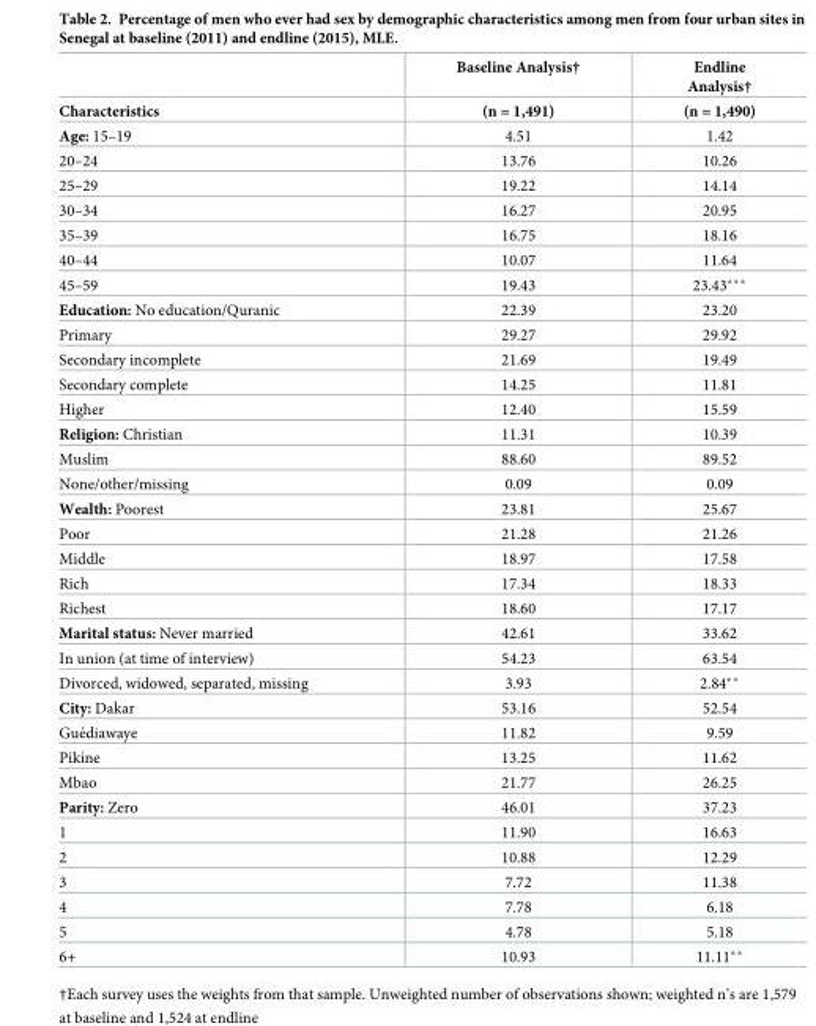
<table><thead><tr><td rowspan="2">Characteristics</td><td rowspan="2">Baseline Analysis† (n = 1,491)</td><td rowspan="2">Endline Analysis† (n = 1,490)</td></tr><tr></tr></thead><tbody><tr><td>Age: 15–19</td><td>4.51</td><td>1.42</td></tr><tr><td>20–24</td><td>13.76</td><td>10.26</td></tr><tr><td>25–29</td><td>19.22</td><td>14.14</td></tr><tr><td>30–34</td><td>16.27</td><td>20.95</td></tr><tr><td>35–39</td><td>16.75</td><td>18.16</td></tr><tr><td>40–44</td><td>10.07</td><td>11.64</td></tr><tr><td>45–59</td><td>19.43</td><td>23.43***</td></tr><tr><td>Education: No education/Quranic</td><td>22.39</td><td>23.20</td></tr><tr><td>Primary</td><td>29.27</td><td>29.92</td></tr><tr><td>Secondary incomplete</td><td>21.69</td><td>19.49</td></tr><tr><td>Secondary complete</td><td>14.25</td><td>11.81</td></tr><tr><td>Higher</td><td>12.40</td><td>15.59</td></tr><tr><td>Religion: Christian</td><td>11.31</td><td>10.39</td></tr><tr><td>Muslim</td><td>88.60</td><td>89.52</td></tr><tr><td>None/other/missing</td><td>0.09</td><td>0.09</td></tr><tr><td>Wealth: Poorest</td><td>23.81</td><td>25.67</td></tr><tr><td>Poor</td><td>21.28</td><td>21.26</td></tr><tr><td>Middle</td><td>18.97</td><td>17.58</td></tr><tr><td>Rich</td><td>17.34</td><td>18.33</td></tr><tr><td>Richest</td><td>18.60</td><td>17.17</td></tr><tr><td>Marital status: Never married</td><td>42.61</td><td>33.62</td></tr><tr><td>In union (at time of interview)</td><td>54.23</td><td>63.54</td></tr><tr><td>Divorced, widowed, separated, missing</td><td>3.93</td><td>2.84**</td></tr><tr><td>City: Dakar</td><td>53.16</td><td>52.54</td></tr><tr><td>Gue´diawaye</td><td>11.82</td><td>9.59</td></tr><tr><td>Pikine</td><td>13.25</td><td>11.62</td></tr><tr><td>Mbao</td><td>21.77</td><td>26.25</td></tr><tr><td>Parity: Zero</td><td>46.01</td><td>37.23</td></tr><tr><td>1</td><td>11.90</td><td>16.63</td></tr><tr><td>2</td><td>10.88</td><td>12.29</td></tr><tr><td>3</td><td>7.72</td><td>11.38</td></tr><tr><td>4</td><td>7.78</td><td>6.18</td></tr><tr><td>5</td><td>4.78</td><td>5.18</td></tr><tr><td>6+</td><td>10.93</td><td>11.11**</td></tr></tbody></table>